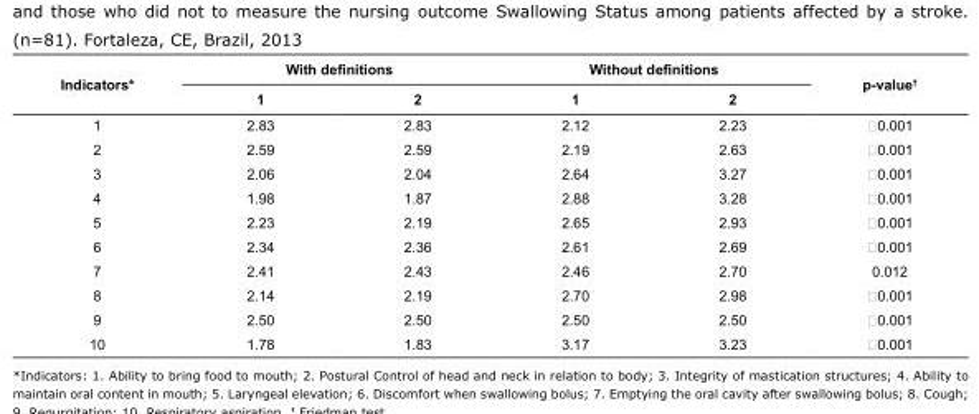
<table><thead><tr><td rowspan="2">Indicators*</td><td colspan="2">With definitions</td><td colspan="2">Without definitions</td><td rowspan="2">p-value<sup>†</sup></td></tr><tr><td>1</td><td>2</td><td>1</td><td>2</td></tr></thead><tbody><tr><td>1</td><td>2.83</td><td>2.83</td><td>2.12</td><td>2.23</td><td>˂0.001</td></tr><tr><td>2</td><td>2.59</td><td>2.59</td><td>2.19</td><td>2.63</td><td>˂0.001</td></tr><tr><td>3</td><td>2.06</td><td>2.04</td><td>2.64</td><td>3.27</td><td>˂0.001</td></tr><tr><td>4</td><td>1.98</td><td>1.87</td><td>2.88</td><td>3.28</td><td>˂0.001</td></tr><tr><td>5</td><td>2.23</td><td>2.19</td><td>2.65</td><td>2.93</td><td>˂0.001</td></tr><tr><td>6</td><td>2.34</td><td>2.36</td><td>2.61</td><td>2.69</td><td>˂0.001</td></tr><tr><td>7</td><td>2.41</td><td>2.43</td><td>2.46</td><td>2.70</td><td>0.012</td></tr><tr><td>8</td><td>2.14</td><td>2.19</td><td>2.70</td><td>2.98</td><td>˂0.001</td></tr><tr><td>9</td><td>2.50</td><td>2.50</td><td>2.50</td><td>2.50</td><td>˂0.001</td></tr><tr><td>10</td><td>1.78</td><td>1.83</td><td>3.17</td><td>3.23</td><td>˂0.001</td></tr></tbody></table>